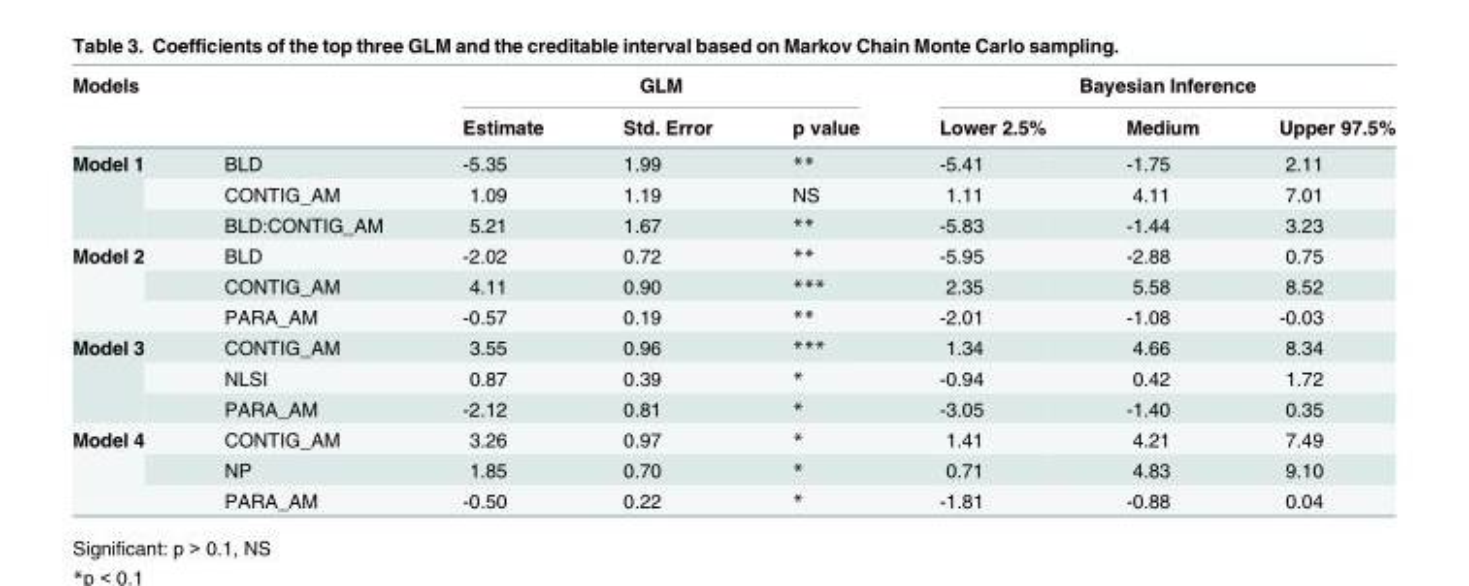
<table><thead><tr><td rowspan="2">Models</td><td rowspan="2"></td><td colspan="3">GLM</td><td colspan="3">Bayesian Inference</td></tr><tr><td>Estimate</td><td>Std. Error</td><td>p value</td><td>Lower 2.5%</td><td>Medium</td><td>Upper 97.5%</td></tr></thead><tbody><tr><td rowspan="3">Model 1</td><td>BLD</td><td>-5.35</td><td>1.99</td><td>**</td><td>-5.41</td><td>-1.75</td><td>2.11</td></tr><tr><td>CONTIG_AM</td><td>1.09</td><td>1.19</td><td>NS</td><td>1.11</td><td>4.11</td><td>7.01</td></tr><tr><td>BLD:CONTIG_AM</td><td>5.21</td><td>1.67</td><td>**</td><td>-5.83</td><td>-1.44</td><td>3.23</td></tr><tr><td rowspan="3">Model 2</td><td>BLD</td><td>-2.02</td><td>0.72</td><td>**</td><td>-5.95</td><td>-2.88</td><td>0.75</td></tr><tr><td>CONTIG_AM</td><td>4.11</td><td>0.90</td><td>***</td><td>2.35</td><td>5.58</td><td>8.52</td></tr><tr><td>PARA_AM</td><td>-0.57</td><td>0.19</td><td>**</td><td>-2.01</td><td>-1.08</td><td>-0.03</td></tr><tr><td rowspan="3">Model 3</td><td>CONTIG_AM</td><td>3.55</td><td>0.96</td><td>***</td><td>1.34</td><td>4.66</td><td>8.34</td></tr><tr><td>NLSI</td><td>0.87</td><td>0.39</td><td>*</td><td>-0.94</td><td>0.42</td><td>1.72</td></tr><tr><td>PARA_AM</td><td>-2.12</td><td>0.81</td><td>*</td><td>-3.05</td><td>-1.40</td><td>0.35</td></tr><tr><td rowspan="3">Model 4</td><td>CONTIG_AM</td><td>3.26</td><td>0.97</td><td>*</td><td>1.41</td><td>4.21</td><td>7.49</td></tr><tr><td>NP</td><td>1.85</td><td>0.70</td><td>*</td><td>0.71</td><td>4.83</td><td>9.10</td></tr><tr><td>PARA_AM</td><td>-0.50</td><td>0.22</td><td>*</td><td>-1.81</td><td>-0.88</td><td>0.04</td></tr></tbody></table>